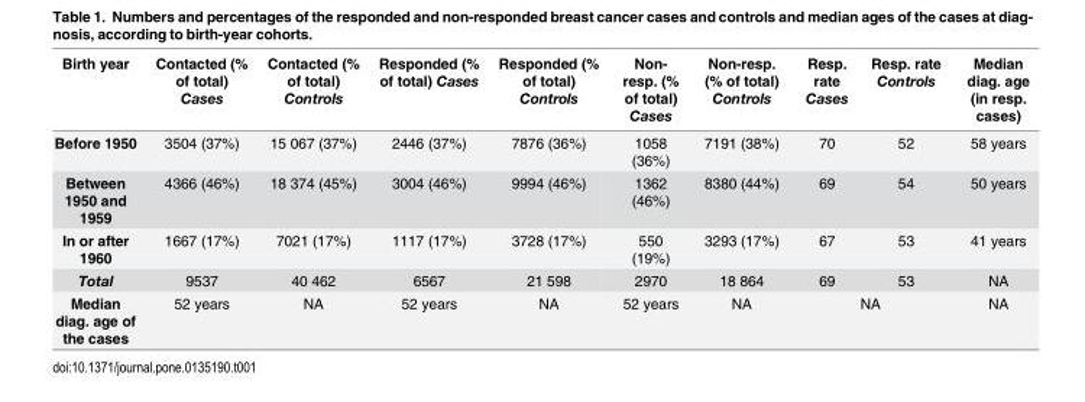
<table><thead><tr><td>Birth year</td><td>Contacted (% of total) Cases</td><td>Contacted (% of total) Controls</td><td>Responded (% of total) Cases</td><td>Responded (% of total) Controls</td><td>Non- resp. (% of total) Cases</td><td>Non-resp. (% of total) Controls</td><td>Resp. rate Cases</td><td>Resp. rate Controls</td><td>Median diag. age (in resp. cases)</td></tr></thead><tbody><tr><td>Before 1950</td><td>3504 (37%)</td><td>15 067 (37%)</td><td>2446 (37%)</td><td>7876 (36%)</td><td>1058 (36%)</td><td>7191 (38%)</td><td>70</td><td>52</td><td>58 years</td></tr><tr><td>Between 1950 and 1959</td><td>4366 (46%)</td><td>18 374 (45%)</td><td>3004 (46%)</td><td>9994 (46%)</td><td>1362 (46%)</td><td>8380 (44%)</td><td>69</td><td>54</td><td>50 years</td></tr><tr><td>In or after 1960</td><td>1667 (17%)</td><td>7021 (17%)</td><td>1117 (17%)</td><td>3728 (17%)</td><td>550 (19%)</td><td>3293 (17%)</td><td>67</td><td>53</td><td>41 years</td></tr><tr><td>Total</td><td>9537</td><td>40 462</td><td>6567</td><td>21 598</td><td>2970</td><td>18 864</td><td>69</td><td>53</td><td>NA</td></tr><tr><td>Median diag. age of the cases</td><td>52 years</td><td>NA</td><td>52 years</td><td>NA</td><td>52 years</td><td>NA</td><td colspan="2">NA</td><td>NA</td></tr></tbody></table>